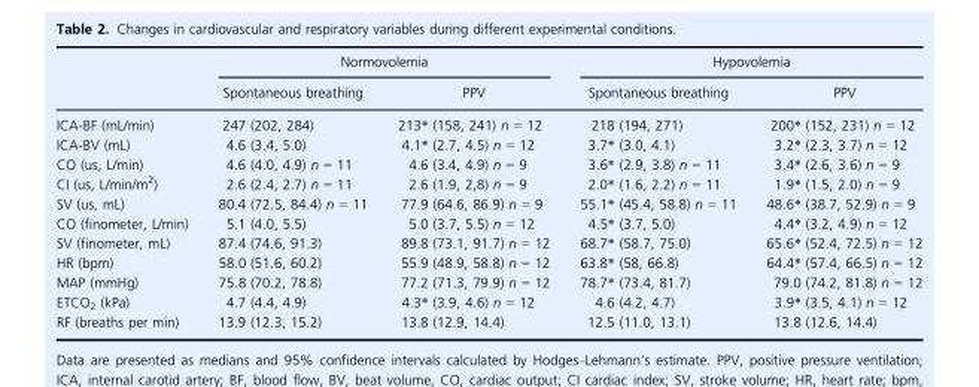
<table><thead><tr><td rowspan="2"></td><td colspan="2">Normovolemia</td><td colspan="2">Hypovolemia</td></tr><tr><td>Spontaneous breathing</td><td>PPV</td><td>Spontaneous breathing</td><td>PPV</td></tr></thead><tbody><tr><td>ICA-BF (mL/min)</td><td>247 (202, 284)</td><td>213* (158, 241) n = 12</td><td>218 (194, 271)</td><td>200* (152, 231) n = 12</td></tr><tr><td>ICA-BV (mL)</td><td>4.6 (3.4, 5.0)</td><td>4.1* (2.7, 4.5) n = 12</td><td>3.7* (3.0, 4.1)</td><td>3.2* (2.3, 3.7) n = 12</td></tr><tr><td>CO (us, L/min)</td><td>4.6 (4.0, 4.9) n = 11</td><td>4.6 (3.4, 4.9) n = 9</td><td>3.6* (2.9, 3.8) n = 11</td><td>3.4* (2.6, 3.6) n = 9</td></tr><tr><td>CI (us, L/min/m<sup>2</sup>)</td><td>2.6 (2.4, 2.7) n = 11</td><td>2.6 (1.9, 2,8) n = 9</td><td>2.0* (1.6, 2.2) n = 11</td><td>1.9* (1.5, 2.0) n = 9</td></tr><tr><td>SV (us, mL)</td><td>80.4 (72.5, 84.4) n = 11</td><td>77.9 (64.6, 86.9) n = 9</td><td>55.1* (45.4, 58.8) n = 11</td><td>48.6* (38.7, 52.9) n = 9</td></tr><tr><td>CO (finometer, L/min)</td><td>5.1 (4.0, 5.5)</td><td>5.0 (3.7, 5.5) n = 12</td><td>4.5* (3.7, 5.0)</td><td>4.4* (3.2, 4.9) n = 12</td></tr><tr><td>SV (finometer, mL)</td><td>87.4 (74.6, 91.3)</td><td>89.8 (73.1, 91.7) n = 12</td><td>68.7* (58.7, 75.0)</td><td>65.6* (52.4, 72.5) n = 12</td></tr><tr><td>HR (bpm)</td><td>58.0 (51.6, 60.2)</td><td>55.9 (48.9, 58.8) n = 12</td><td>63.8* (58, 66.8)</td><td>64.4* (57.4, 66.5) n = 12</td></tr><tr><td>MAP (mmHg)</td><td>75.8 (70.2, 78.8)</td><td>77.2 (71.3, 79.9) n = 12</td><td>78.7* (73.4, 81.7)</td><td>79.0 (74.2, 81.8) n = 12</td></tr><tr><td>ETCO<sub>2</sub> (kPa)</td><td>4.7 (4.4, 4.9)</td><td>4.3* (3.9, 4.6) n = 12</td><td>4.6 (4.2, 4.7)</td><td>3.9* (3.5, 4.1) n = 12</td></tr><tr><td>RF (breaths per min)</td><td>13.9 (12.3, 15.2)</td><td>13.8 (12.9, 14.4)</td><td>12.5 (11.0, 13.1)</td><td>13.8 (12.6, 14.4)</td></tr></tbody></table>